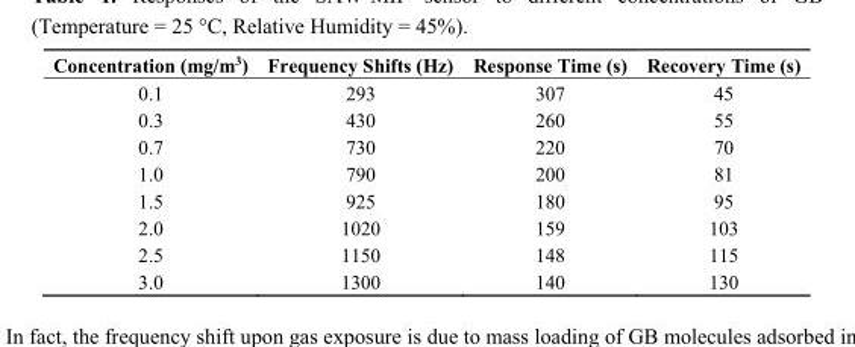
<table><thead><tr><td>Concentration (mg/m<sup>3</sup>)</td><td>Frequency Shifts (Hz)</td><td>Response Time (s)</td><td>Recovery Time (s)</td></tr></thead><tbody><tr><td>0.1</td><td>293</td><td>307</td><td>45</td></tr><tr><td>0.3</td><td>430</td><td>260</td><td>55</td></tr><tr><td>0.7</td><td>730</td><td>220</td><td>70</td></tr><tr><td>1.0</td><td>790</td><td>200</td><td>81</td></tr><tr><td>1.5</td><td>925</td><td>180</td><td>95</td></tr><tr><td>2.0</td><td>1020</td><td>159</td><td>103</td></tr><tr><td>2.5</td><td>1150</td><td>148</td><td>115</td></tr><tr><td>3.0</td><td>1300</td><td>140</td><td>130</td></tr></tbody></table>